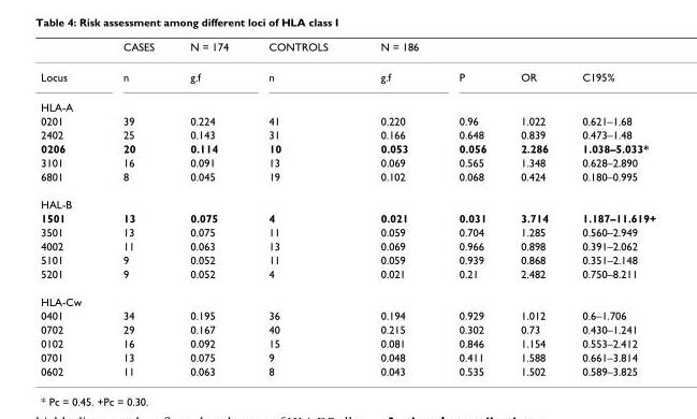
<table><thead><tr><td></td><td>CASES</td><td>N = 174</td><td>CONTROLS</td><td>N = 186</td><td></td><td></td><td></td></tr></thead><tbody><tr><td>Locus</td><td>n</td><td>g.f</td><td>n</td><td>g.f</td><td>P</td><td>OR</td><td>C195%</td></tr><tr><td colspan="8">HLA-A</td></tr><tr><td>0201</td><td>39</td><td>0.224</td><td>41</td><td>0.220</td><td>0.96</td><td>1.022</td><td>0.621–1.68</td></tr><tr><td>2402</td><td>25</td><td>0.143</td><td>31</td><td>0.166</td><td>0.648</td><td>0.839</td><td>0.473–1.48</td></tr><tr><td>0206</td><td>20</td><td>0.114</td><td>10</td><td>0.053</td><td>0.056</td><td>2.286</td><td>1.038–5.033*</td></tr><tr><td>3101</td><td>16</td><td>0.091</td><td>13</td><td>0.069</td><td>0.565</td><td>1.348</td><td>0.628–2.890</td></tr><tr><td>6801</td><td>8</td><td>0.045</td><td>19</td><td>0.102</td><td>0.068</td><td>0.424</td><td>0.180–0.995</td></tr><tr><td colspan="8">HAL-B</td></tr><tr><td>1501</td><td>13</td><td>0.075</td><td>4</td><td>0.021</td><td>0.031</td><td>3.714</td><td>1.187–11.619+</td></tr><tr><td>3501</td><td>13</td><td>0.075</td><td>11</td><td>0.059</td><td>0.704</td><td>1.285</td><td>0.560–2.949</td></tr><tr><td>4002</td><td>11</td><td>0.063</td><td>13</td><td>0.069</td><td>0.966</td><td>0.898</td><td>0.391–2.062</td></tr><tr><td>5101</td><td>9</td><td>0.052</td><td>11</td><td>0.059</td><td>0.939</td><td>0.868</td><td>0.351–2.148</td></tr><tr><td>5201</td><td>9</td><td>0.052</td><td>4</td><td>0.021</td><td>0.21</td><td>2.482</td><td>0.750–8.211</td></tr><tr><td colspan="8">HLA-Cw</td></tr><tr><td>0401</td><td>34</td><td>0.195</td><td>36</td><td>0.194</td><td>0.929</td><td>1.012</td><td>0.6–1.706</td></tr><tr><td>0702</td><td>29</td><td>0.167</td><td>40</td><td>0.215</td><td>0.302</td><td>0.73</td><td>0.430–1.241</td></tr><tr><td>0102</td><td>16</td><td>0.092</td><td>15</td><td>0.081</td><td>0.846</td><td>1.154</td><td>0.553–2.412</td></tr><tr><td>0701</td><td>13</td><td>0.075</td><td>9</td><td>0.048</td><td>0.411</td><td>1.588</td><td>0.661–3.814</td></tr><tr><td>0602</td><td>11</td><td>0.063</td><td>8</td><td>0.043</td><td>0.535</td><td>1.502</td><td>0.589–3.825</td></tr></tbody></table>